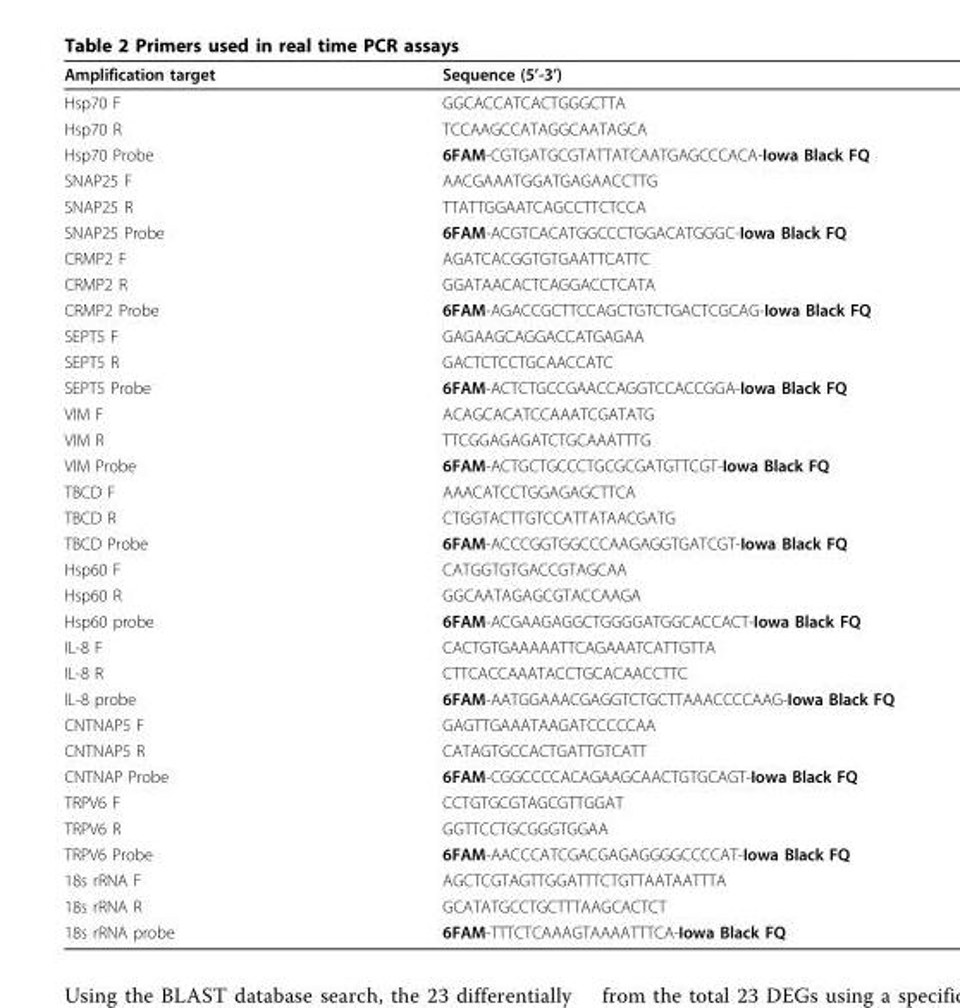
<table><thead><tr><td>Amplification target</td><td>Sequence (5’-3’)</td></tr></thead><tbody><tr><td>Hsp70 F</td><td>GGCACCATCACTGGGCTTA</td></tr><tr><td>Hsp70 R</td><td>TCCAAGCCATAGGCAATAGCA</td></tr><tr><td>Hsp70 Probe</td><td>6FAM-CGTGATGCGTATTATCAATGAGCCCACA-Iowa Black FQ</td></tr><tr><td>SNAP25 F</td><td>AACGAAATGGATGAGAACCTTG</td></tr><tr><td>SNAP25 R</td><td>TTATTGGAATCAGCCTTCTCCA</td></tr><tr><td>SNAP25 Probe</td><td>6FAM-ACGTCACATGGCCCTGGACATGGGC-Iowa Black FQ</td></tr><tr><td>CRMP2 F</td><td>AGATCACGGTGTGAATTCATTC</td></tr><tr><td>CRMP2 R</td><td>GGATAACACTCAGGACCTCATA</td></tr><tr><td>CRMP2 Probe</td><td>6FAM-AGACCGCTTCCAGCTGTCTGACTCGCAG-Iowa Black FQ</td></tr><tr><td>SEPT5 F</td><td>GAGAAGCAGGACCATGAGAA</td></tr><tr><td>SEPT5 R</td><td>GACTCTCCTGCAACCATC</td></tr><tr><td>SEPT5 Probe</td><td>6FAM-ACTCTGCCGAACCAGGTCCACCGGA-Iowa Black FQ</td></tr><tr><td>VIM F</td><td>ACAGCACATCCAAATCGATATG</td></tr><tr><td>VIM R</td><td>TTCGGAGAGATCTGCAAATTTG</td></tr><tr><td>VIM Probe</td><td>6FAM-ACTGCTGCCCTGCGCGATGTTCGT-Iowa Black FQ</td></tr><tr><td>TBCD F</td><td>AAACATCCTGGAGAGCTTCA</td></tr><tr><td>TBCD R</td><td>CTGGTACTTGTCCATTATAACGATG</td></tr><tr><td>TBCD Probe</td><td>6FAM-ACCCGGTGGCCCAAGAGGTGATCGT-Iowa Black FQ</td></tr><tr><td>Hsp60 F</td><td>CATGGTGTGACCGTAGCAA</td></tr><tr><td>Hsp60 R</td><td>GGCAATAGAGCGTACCAAGA</td></tr><tr><td>Hsp60 probe</td><td>6FAM-ACGAAGAGGCTGGGGATGGCACCACT-Iowa Black FQ</td></tr><tr><td>IL-8 F</td><td>CACTGTGAAAAATTCAGAAATCATTGTTA</td></tr><tr><td>IL-8 R</td><td>CTTCACCAAATACCTGCACAACCTTC</td></tr><tr><td>IL-8 probe</td><td>6FAM-AATGGAAACGAGGTCTGCTTAAACCCCAAG-Iowa Black FQ</td></tr><tr><td>CNTNAP5 F</td><td>GAGTTGAAATAAGATCCCCCAA</td></tr><tr><td>CNTNAP5 R</td><td>CATAGTGCCACTGATTGTCATT</td></tr><tr><td>CNTNAP Probe</td><td>6FAM-CGGCCCCACAGAAGCAACTGTGCAGT-Iowa Black FQ</td></tr><tr><td>TRPV6 F</td><td>CCTGTGCGTAGCGTTGGAT</td></tr><tr><td>TRPV6 R</td><td>GGTTCCTGCGGGTGGAA</td></tr><tr><td>TRPV6 Probe</td><td>6FAM-AACCCATCGACGAGAGGGGCCCCAT-Iowa Black FQ</td></tr><tr><td>18s rRNA F</td><td>AGCTCGTAGTTGGATTTCTGTTAATAATTTA</td></tr><tr><td>18s rRNA R</td><td>GCATATGCCTGCTTTAAGCACTCT</td></tr><tr><td>18s rRNA probe</td><td>6FAM-TTTCTCAAAGTAAAATTTCA-Iowa Black FQ</td></tr></tbody></table>